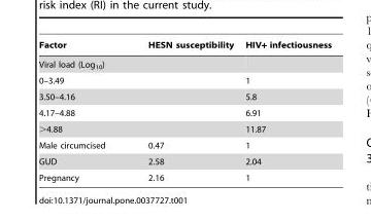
<table><thead><tr><td>Factor</td><td>HESN susceptibility</td><td>HIV+ infectiousness</td></tr></thead><tbody><tr><td colspan="3">Viral load (Log<sub>10</sub>)</td></tr><tr><td>0–3.49</td><td></td><td>1</td></tr><tr><td>3.50–4.16</td><td></td><td>5.8</td></tr><tr><td>4.17–4.88</td><td></td><td>6.91</td></tr><tr><td>&gt;4.88</td><td></td><td>11.87</td></tr><tr><td>Male circumcised</td><td>0.47</td><td>1</td></tr><tr><td>GUD</td><td>2.58</td><td>2.04</td></tr><tr><td>Pregnancy</td><td>2.16</td><td>1</td></tr></tbody></table>